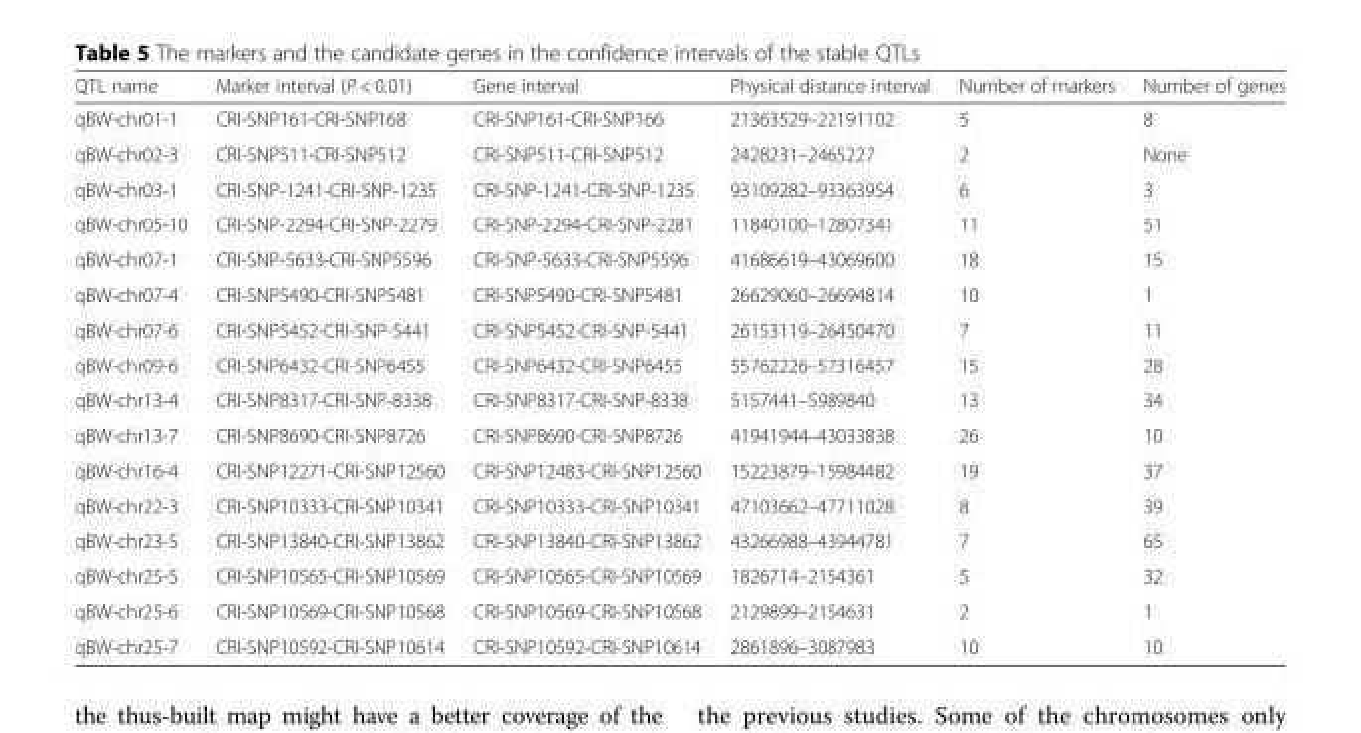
<table><thead><tr><td>QTL name</td><td>Marker interval (P &lt; 0.01)</td><td>Gene interval</td><td>Physical distance interval</td><td>Number of markers</td><td>Number of genes</td></tr></thead><tbody><tr><td>qBW-chr01-1</td><td>CRI-SNP161-CRI-SNP168</td><td>CRI-SNP161-CRI-SNP166</td><td>21363529–22191102</td><td>5</td><td>8</td></tr><tr><td>qBW-chr02-3</td><td>CRI-SNP511-CRI-SNP512</td><td>CRI-SNP511-CRI-SNP512</td><td>2428231–2465227</td><td>2</td><td>None</td></tr><tr><td>qBW-chr03-1</td><td>CRI-SNP-1241-CRI-SNP-1235</td><td>CRI-SNP-1241-CRI-SNP-1235</td><td>93109282–93363954</td><td>6</td><td>3</td></tr><tr><td>qBW-chr05-10</td><td>CRI-SNP-2294-CRI-SNP-2279</td><td>CRI-SNP-2294-CRI-SNP-2281</td><td>11840100–12807341</td><td>11</td><td>51</td></tr><tr><td>qBW-chr07-1</td><td>CRI-SNP-5633-CRI-SNP5596</td><td>CRI-SNP-5633-CRI-SNP5596</td><td>41686619–43069600</td><td>18</td><td>15</td></tr><tr><td>qBW-chr07-4</td><td>CRI-SNP5490-CRI-SNP5481</td><td>CRI-SNP5490-CRI-SNP5481</td><td>26629060–26694814</td><td>10</td><td>1</td></tr><tr><td>qBW-chr07-6</td><td>CRI-SNP5452-CRI-SNP-5441</td><td>CRI-SNP5452-CRI-SNP-5441</td><td>26153119–26450470</td><td>7</td><td>11</td></tr><tr><td>qBW-chr09-6</td><td>CRI-SNP6432-CRI-SNP6455</td><td>CRI-SNP6432-CRI-SNP6455</td><td>55762226–57316457</td><td>15</td><td>28</td></tr><tr><td>qBW-chr13-4</td><td>CRI-SNP8317-CRI-SNP-8338</td><td>CRI-SNP8317-CRI-SNP-8338</td><td>5157441–5989840</td><td>13</td><td>34</td></tr><tr><td>qBW-chr13-7</td><td>CRI-SNP8690-CRI-SNP8726</td><td>CRI-SNP8690-CRI-SNP8726</td><td>41941944–43033838</td><td>26</td><td>10</td></tr><tr><td>qBW-chr16-4</td><td>CRI-SNP12271-CRI-SNP12560</td><td>CRI-SNP12483-CRI-SNP12560</td><td>15223879–15984482</td><td>19</td><td>37</td></tr><tr><td>qBW-chr22-3</td><td>CRI-SNP10333-CRI-SNP10341</td><td>CRI-SNP10333-CRI-SNP10341</td><td>47103662–47711028</td><td>8</td><td>39</td></tr><tr><td>qBW-chr23-5</td><td>CRI-SNP13840-CRI-SNP13862</td><td>CRI-SNP13840-CRI-SNP13862</td><td>43266988–43944781</td><td>7</td><td>65</td></tr><tr><td>qBW-chr25-5</td><td>CRI-SNP10565-CRI-SNP10569</td><td>CRI-SNP10565-CRI-SNP10569</td><td>1826714–2154361</td><td>5</td><td>32</td></tr><tr><td>qBW-chr25-6</td><td>CRI-SNP10569-CRI-SNP10568</td><td>CRI-SNP10569-CRI-SNP10568</td><td>2129899–2154631</td><td>2</td><td>1</td></tr><tr><td>qBW-chr25-7</td><td>CRI-SNP10592-CRI-SNP10614</td><td>CRI-SNP10592-CRI-SNP10614</td><td>2861896–3087983</td><td>10</td><td>10</td></tr></tbody></table>